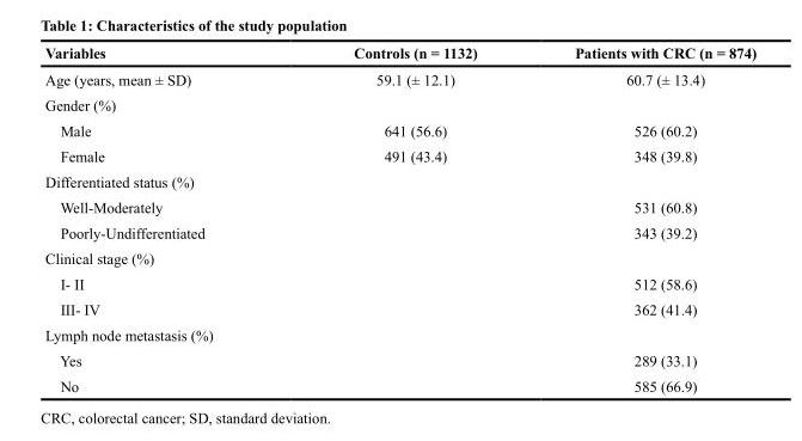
<table><thead><tr><td>Variables</td><td>Controls (n = 1132)</td><td>Patients with CRC (n = 874)</td></tr></thead><tbody><tr><td>Age (years, mean ± SD)</td><td>59.1 (± 12.1)</td><td>60.7 (± 13.4)</td></tr><tr><td colspan="3">Gender (%)</td></tr><tr><td>Male</td><td>641 (56.6)</td><td>526 (60.2)</td></tr><tr><td>Female</td><td>491 (43.4)</td><td>348 (39.8)</td></tr><tr><td colspan="3">Differentiated status (%)</td></tr><tr><td>Well-Moderately</td><td></td><td>531 (60.8)</td></tr><tr><td>Poorly-Undifferentiated</td><td></td><td>343 (39.2)</td></tr><tr><td colspan="3">Clinical stage (%)</td></tr><tr><td>I- II</td><td></td><td>512 (58.6)</td></tr><tr><td>III- IV</td><td></td><td>362 (41.4)</td></tr><tr><td colspan="3">Lymph node metastasis (%)</td></tr><tr><td>Yes</td><td></td><td>289 (33.1)</td></tr><tr><td>No</td><td></td><td>585 (66.9)</td></tr></tbody></table>